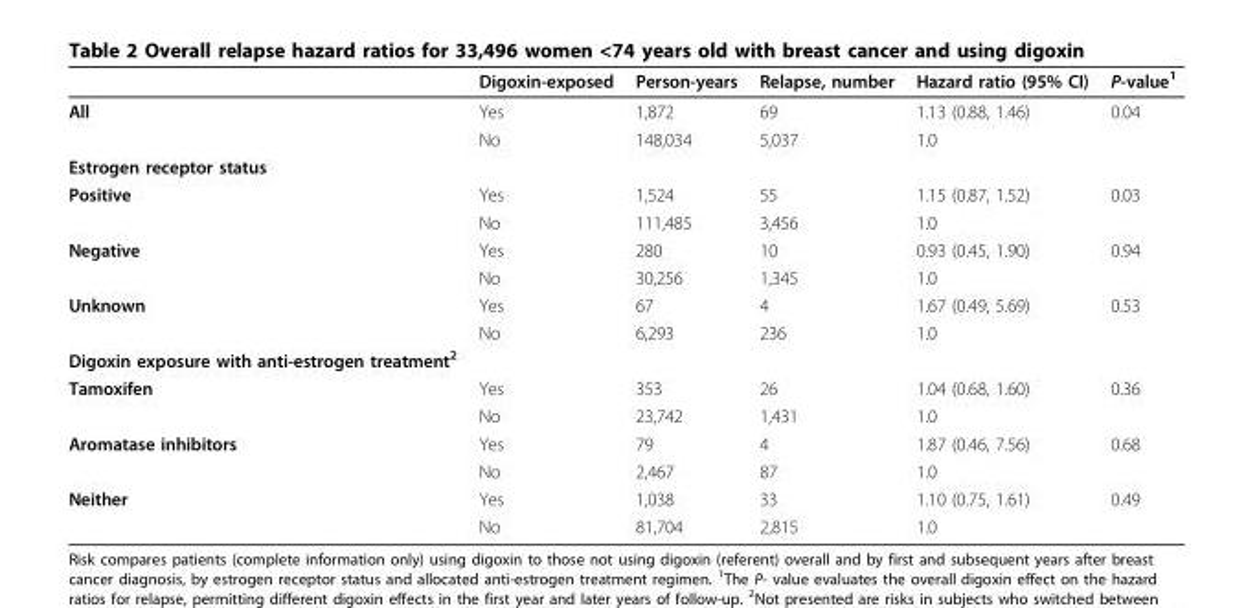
<table><thead><tr><td></td><td>Digoxin-exposed</td><td>Person-years</td><td>Relapse, number</td><td>Hazard ratio (95% CI)</td><td>P-value<sup>1</sup></td></tr></thead><tbody><tr><td rowspan="2">All</td><td>Yes</td><td>1,872</td><td>69</td><td>1.13 (0.88, 1.46)</td><td>0.04</td></tr><tr><td>No</td><td>148,034</td><td>5,037</td><td>1.0</td><td></td></tr><tr><td colspan="6">Estrogen receptor status</td></tr><tr><td rowspan="2">Positive</td><td>Yes</td><td>1,524</td><td>55</td><td>1.15 (0.87, 1.52)</td><td>0.03</td></tr><tr><td>No</td><td>111,485</td><td>3,456</td><td>1.0</td><td></td></tr><tr><td rowspan="2">Negative</td><td>Yes</td><td>280</td><td>10</td><td>0.93 (0.45, 1.90)</td><td>0.94</td></tr><tr><td>No</td><td>30,256</td><td>1,345</td><td>1.0</td><td></td></tr><tr><td rowspan="2">Unknown</td><td>Yes</td><td>67</td><td>4</td><td>1.67 (0.49, 5.69)</td><td>0.53</td></tr><tr><td>No</td><td>6,293</td><td>236</td><td>1.0</td><td></td></tr><tr><td colspan="6">Digoxin exposure with anti-estrogen treatment<sup>2</sup></td></tr><tr><td rowspan="2">Tamoxifen</td><td>Yes</td><td>353</td><td>26</td><td>1.04 (0.68, 1.60)</td><td>0.36</td></tr><tr><td>No</td><td>23,742</td><td>1,431</td><td>1.0</td><td></td></tr><tr><td rowspan="2">Aromatase inhibitors</td><td>Yes</td><td>79</td><td>4</td><td>1.87 (0.46, 7.56)</td><td>0.68</td></tr><tr><td>No</td><td>2,467</td><td>87</td><td>1.0</td><td></td></tr><tr><td rowspan="2">Neither</td><td>Yes</td><td>1,038</td><td>33</td><td>1.10 (0.75, 1.61)</td><td>0.49</td></tr><tr><td>No</td><td>81,704</td><td>2,815</td><td>1.0</td><td></td></tr></tbody></table>